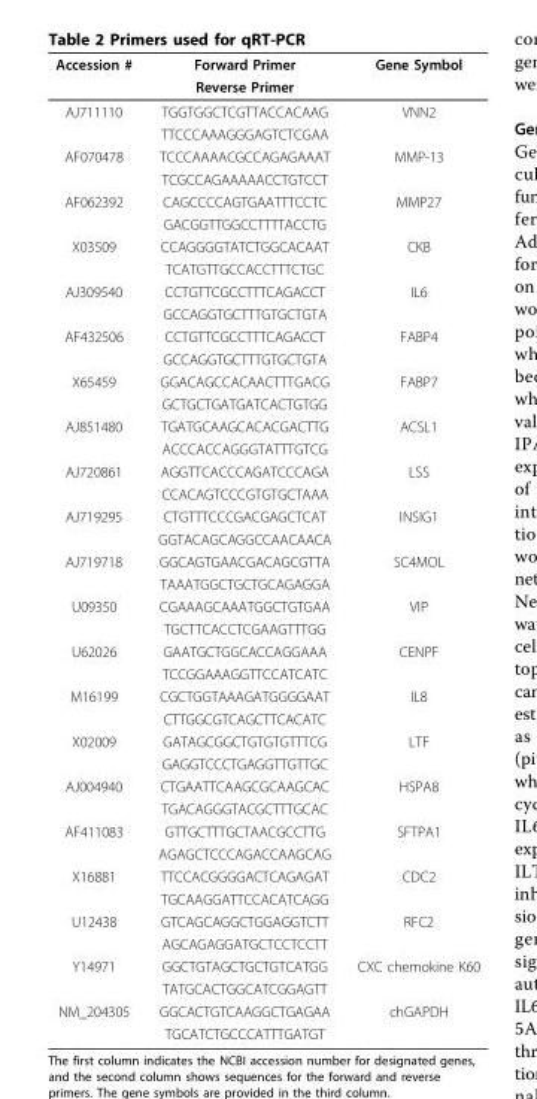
<table><thead><tr><td rowspan="2">Accession #</td><td rowspan="2">Forward Primer Reverse Primer</td><td rowspan="2">Gene Symbol</td></tr><tr></tr></thead><tbody><tr><td rowspan="2">AJ711110</td><td>TGGTGGCTCGTTACCACAAG</td><td>VNN2</td></tr><tr><td>TTCCCAAAGGGAGTCTCGAA</td><td></td></tr><tr><td rowspan="2">AF070478</td><td>TCCCAAAACGCCAGAGAAAT</td><td>MMP-13</td></tr><tr><td>TCGCCAGAAAAACCTGTCCT</td><td></td></tr><tr><td rowspan="2">AF062392</td><td>CAGCCCCAGTGAATTTCCTC</td><td>MMP27</td></tr><tr><td>GACGGTTGGCCTTTTACCTG</td><td></td></tr><tr><td rowspan="2">X03509</td><td>CCAGGGGTATCTGGCACAAT</td><td>CKB</td></tr><tr><td>TCATGTTGCCACCTTTCTGC</td><td></td></tr><tr><td rowspan="2">AJ309540</td><td>CCTGTTCGCCTTTCAGACCT</td><td>IL6</td></tr><tr><td>GCCAGGTGCTTTGTGCTGTA</td><td></td></tr><tr><td rowspan="2">AF432506</td><td>CCTGTTCGCCTTTCAGACCT</td><td>FABP4</td></tr><tr><td>GCCAGGTGCTTTGTGCTGTA</td><td></td></tr><tr><td rowspan="2">X65459</td><td>GGACAGCCACAACTTTGACG</td><td>FABP7</td></tr><tr><td>GCTGCTGATGATCACTGTGG</td><td></td></tr><tr><td rowspan="2">AJ851480</td><td>TGATGCAAGCACACGACTTG</td><td>ACSL1</td></tr><tr><td>ACCCACCAGGGTATTTGTCG</td><td></td></tr><tr><td rowspan="2">AJ720861</td><td>AGGTTCACCCAGATCCCAGA</td><td>LSS</td></tr><tr><td>CCACAGTCCCGTGTGCTAAA</td><td></td></tr><tr><td rowspan="2">AJ719295</td><td>CTGTTTCCCGACGAGCTCAT</td><td>INSIG1</td></tr><tr><td>GGTACAGCAGGCCAACAACA</td><td></td></tr><tr><td rowspan="2">AJ719718</td><td>GGCAGTGAACGACAGCGTTA</td><td>SC4MOL</td></tr><tr><td>TAAATGGCTGCTGCAGAGGA</td><td></td></tr><tr><td rowspan="2">U09350</td><td>CGAAAGCAAATGGCTGTGAA</td><td>VIP</td></tr><tr><td>TGCTTCACCTCGAAGTTTGG</td><td></td></tr><tr><td rowspan="2">U62026</td><td>GAATGCTGGCACCAGGAAA</td><td>CENPF</td></tr><tr><td>TCCGGAAAGGTTCCATCATC</td><td></td></tr><tr><td rowspan="2">M16199</td><td>CGCTGGTAAAGATGGGGAAT</td><td>IL8</td></tr><tr><td>CTTGGCGTCAGCTTCACATC</td><td></td></tr><tr><td rowspan="2">X02009</td><td>GATAGCGGCTGTGTGTTTCG</td><td>LTF</td></tr><tr><td>GAGGTCCCTGAGGTTGTTGC</td><td></td></tr><tr><td rowspan="2">AJ004940</td><td>CTGAATTCAAGCGCAAGCAC</td><td>HSPA8</td></tr><tr><td>TGACAGGGTACGCTTTGCAC</td><td></td></tr><tr><td rowspan="2">AF411083</td><td>GTTGCTTTGCTAACGCCTTG</td><td>SFTPA1</td></tr><tr><td>AGAGCTCCCAGACCAAGCAG</td><td></td></tr><tr><td rowspan="2">X16881</td><td>TTCCACGGGGACTCAGAGAT</td><td>CDC2</td></tr><tr><td>TGCAAGGATTCCACATCAGG</td><td></td></tr><tr><td rowspan="2">U12438</td><td>GTCAGCAGGCTGGAGGTCTT</td><td>RFC2</td></tr><tr><td>AGCAGAGGATGCTCCTCCTT</td><td></td></tr><tr><td rowspan="2">Y14971</td><td>GGCTGTAGCTGCTGTCATGG</td><td>CXC chemokine K60</td></tr><tr><td>TATGCACTGGCATCGGAGTT</td><td></td></tr><tr><td rowspan="2">NM_204305</td><td>GGCACTGTCAAGGCTGAGAA</td><td>chGAPDH</td></tr><tr><td>TGCATCTGCCCATTTGATGT</td><td></td></tr></tbody></table>